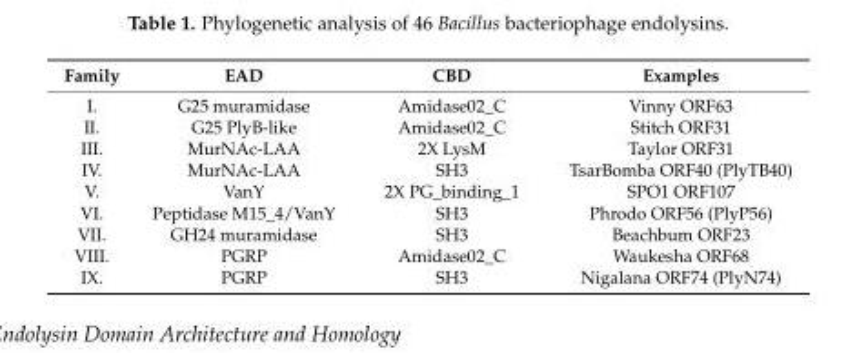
<table><thead><tr><td>Family</td><td>EAD</td><td>CBD</td><td>Examples</td></tr></thead><tbody><tr><td>I.</td><td>G25 muramidase</td><td>Amidase02_C</td><td>Vinny ORF63</td></tr><tr><td>II.</td><td>G25 PlyB-like</td><td>Amidase02_C</td><td>Stitch ORF31</td></tr><tr><td>III.</td><td>MurNAc-LAA</td><td>2X LysM</td><td>Taylor ORF31</td></tr><tr><td>IV.</td><td>MurNAc-LAA</td><td>SH3</td><td>TsarBomba ORF40 (PlyTB40)</td></tr><tr><td>V.</td><td>VanY</td><td>2X PG_binding_1</td><td>SPO1 ORF107</td></tr><tr><td>VI.</td><td>Peptidase M15_4/VanY</td><td>SH3</td><td>Phrodo ORF56 (PlyP56)</td></tr><tr><td>VII.</td><td>GH24 muramidase</td><td>SH3</td><td>Beachbum ORF23</td></tr><tr><td>VIII.</td><td>PGRP</td><td>Amidase02_C</td><td>Waukesha ORF68</td></tr><tr><td>IX.</td><td>PGRP</td><td>SH3</td><td>Nigalana ORF74 (PlyN74)</td></tr></tbody></table>